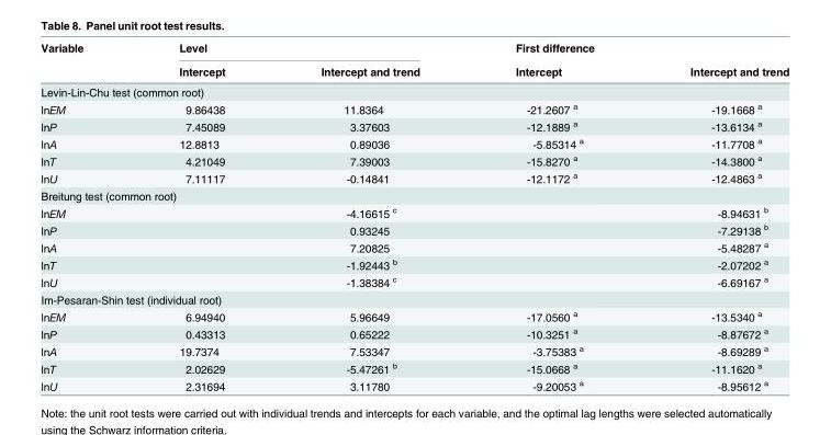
<table><thead><tr><td rowspan="2">Variable</td><td colspan="2">Level</td><td rowspan="2">First difference Intercept</td><td rowspan="2">Intercept and trend</td></tr><tr><td>Intercept</td><td>Intercept and trend</td></tr></thead><tbody><tr><td colspan="5">Levin-Lin-Chu test (common root)</td></tr><tr><td>lnEM</td><td>9.86438</td><td>11.8364</td><td>-21.2607 <sup>a</sup></td><td>-19.1668 <sup>a</sup></td></tr><tr><td>lnP</td><td>7.45089</td><td>3.37603</td><td>-12.1889 <sup>a</sup></td><td>-13.6134 <sup>a</sup></td></tr><tr><td>lnA</td><td>12.8813</td><td>0.89036</td><td>-5.85314 <sup>a</sup></td><td>-11.7708 <sup>a</sup></td></tr><tr><td>lnT</td><td>4.21049</td><td>7.39003</td><td>-15.8270 <sup>a</sup></td><td>-14.3800 <sup>a</sup></td></tr><tr><td>lnU</td><td>7.11117</td><td>-0.14841</td><td>-12.1172 <sup>a</sup></td><td>-12.4863 <sup>a</sup></td></tr><tr><td colspan="5">Breitung test (common root)</td></tr><tr><td>lnEM</td><td></td><td>-4.16615 <sup>c</sup></td><td></td><td>-8.94631 <sup>b</sup></td></tr><tr><td>lnP</td><td></td><td>0.93245</td><td></td><td>-7.29138 <sup>b</sup></td></tr><tr><td>lnA</td><td></td><td>7.20825</td><td></td><td>-5.48287 <sup>a</sup></td></tr><tr><td>lnT</td><td></td><td>-1.92443 <sup>b</sup></td><td></td><td>-2.07202 <sup>a</sup></td></tr><tr><td>lnU</td><td></td><td>-1.38384 <sup>c</sup></td><td></td><td>-6.69167 <sup>a</sup></td></tr><tr><td colspan="5">Im-Pesaran-Shin test (individual root)</td></tr><tr><td>lnEM</td><td>6.94940</td><td>5.96649</td><td>-17.0560 <sup>a</sup></td><td>-13.5340 <sup>a</sup></td></tr><tr><td>lnP</td><td>0.43313</td><td>0.65222</td><td>-10.3251 <sup>a</sup></td><td>-8.87672 <sup>a</sup></td></tr><tr><td>lnA</td><td>19.7374</td><td>7.53347</td><td>-3.75383 <sup>a</sup></td><td>-8.69289 <sup>a</sup></td></tr><tr><td>lnT</td><td>2.02629</td><td>-5.47261 <sup>b</sup></td><td>-15.0668 <sup>a</sup></td><td>-11.1620 <sup>a</sup></td></tr><tr><td>lnU</td><td>2.31694</td><td>3.11780</td><td>-9.20053 <sup>a</sup></td><td>-8.95612 <sup>a</sup></td></tr></tbody></table>